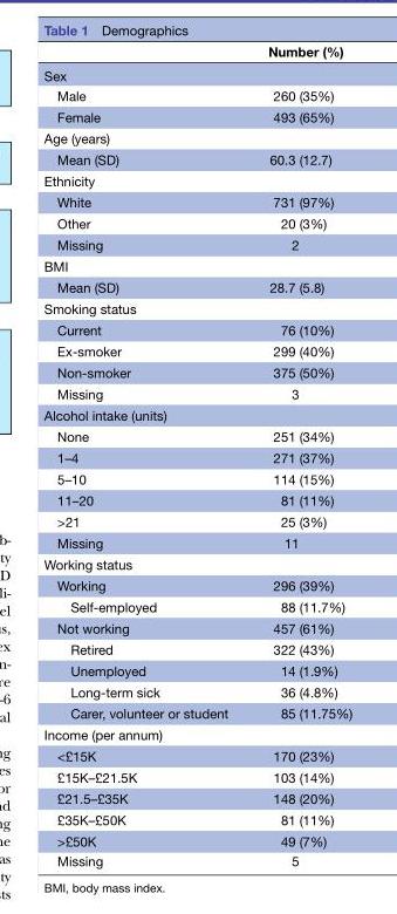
<table><thead><tr><td></td><td>Number (%)</td></tr></thead><tbody><tr><td colspan="2">Sex</td></tr><tr><td>Male</td><td>260 (35%)</td></tr><tr><td>Female</td><td>493 (65%)</td></tr><tr><td colspan="2">Age (years)</td></tr><tr><td>Mean (SD)</td><td>60.3 (12.7)</td></tr><tr><td colspan="2">Ethnicity</td></tr><tr><td>White</td><td>731 (97%)</td></tr><tr><td>Other</td><td>20 (3%)</td></tr><tr><td>Missing</td><td>2</td></tr><tr><td colspan="2">BMI</td></tr><tr><td>Mean (SD)</td><td>28.7 (5.8)</td></tr><tr><td colspan="2">Smoking status</td></tr><tr><td>Current</td><td>76 (10%)</td></tr><tr><td>Ex-smoker</td><td>299 (40%)</td></tr><tr><td>Non-smoker</td><td>375 (50%)</td></tr><tr><td>Missing</td><td>3</td></tr><tr><td colspan="2">Alcohol intake (units)</td></tr><tr><td>None</td><td>251 (34%)</td></tr><tr><td>1–4</td><td>271 (37%)</td></tr><tr><td>5–10</td><td>114 (15%)</td></tr><tr><td>11–20</td><td>81 (11%)</td></tr><tr><td>&gt;21</td><td>25 (3%)</td></tr><tr><td>Missing</td><td>11</td></tr><tr><td colspan="2">Working status</td></tr><tr><td>Working</td><td>296 (39%)</td></tr><tr><td>Self-employed</td><td>88 (11.7%)</td></tr><tr><td>Not working</td><td>457 (61%)</td></tr><tr><td>Retired</td><td>322 (43%)</td></tr><tr><td>Unemployed</td><td>14 (1.9%)</td></tr><tr><td>Long-term sick</td><td>36 (4.8%)</td></tr><tr><td>Carer, volunteer or student</td><td>85 (11.75%)</td></tr><tr><td colspan="2">Income (per annum)</td></tr><tr><td>&lt;£15K</td><td>170 (23%)</td></tr><tr><td>£15K–£21.5K</td><td>103 (14%)</td></tr><tr><td>£21.5–£35K</td><td>148 (20%)</td></tr><tr><td>£35K–£50K</td><td>81 (11%)</td></tr><tr><td>&gt;£50K</td><td>49 (7%)</td></tr><tr><td>Missing</td><td>5</td></tr></tbody></table>